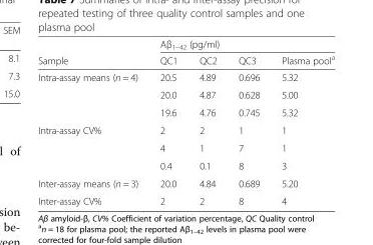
<table><thead><tr><td rowspan="2">Sample</td><td colspan="4">Aβ<sub>1–42</sub> (pg/ml)</td></tr><tr><td>QC1</td><td>QC2</td><td>QC3</td><td>Plasma pool<sup>a</sup></td></tr></thead><tbody><tr><td rowspan="3">Intra-assay means (n = 4)</td><td>20.5</td><td>4.89</td><td>0.696</td><td>5.32</td></tr><tr><td>20.0</td><td>4.87</td><td>0.628</td><td>5.00</td></tr><tr><td>19.6</td><td>4.76</td><td>0.745</td><td>5.32</td></tr><tr><td rowspan="3">Intra-assay CV%</td><td>2</td><td>2</td><td>1</td><td>1</td></tr><tr><td>4</td><td>1</td><td>7</td><td>1</td></tr><tr><td>0.4</td><td>0.1</td><td>8</td><td>3</td></tr><tr><td>Inter-assay means (n = 3)</td><td>20.0</td><td>4.84</td><td>0.689</td><td>5.20</td></tr><tr><td>Inter-assay CV%</td><td>2</td><td>2</td><td>8</td><td>4</td></tr></tbody></table>